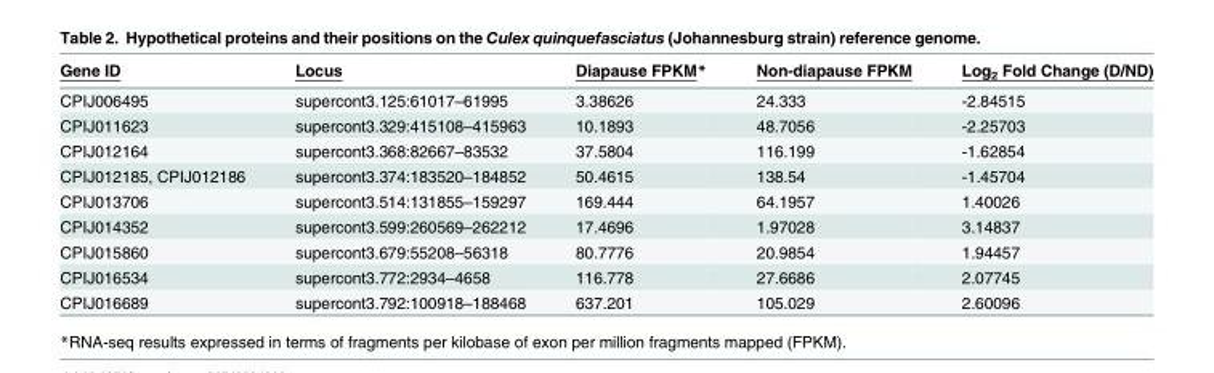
<table><thead><tr><td>Gene ID</td><td>Locus</td><td>Diapause FPKM*</td><td>Non-diapause FPKM</td><td>Log<sub>2</sub> Fold Change (D/ND)</td></tr></thead><tbody><tr><td>CPIJ006495</td><td>supercont3.125:61017–61995</td><td>3.38626</td><td>24.333</td><td>-2.84515</td></tr><tr><td>CPIJ011623</td><td>supercont3.329:415108–415963</td><td>10.1893</td><td>48.7056</td><td>-2.25703</td></tr><tr><td>CPIJ012164</td><td>supercont3.368:82667–83532</td><td>37.5804</td><td>116.199</td><td>-1.62854</td></tr><tr><td>CPIJ012185, CPIJ012186</td><td>supercont3.374:183520–184852</td><td>50.4615</td><td>138.54</td><td>-1.45704</td></tr><tr><td>CPIJ013706</td><td>supercont3.514:131855–159297</td><td>169.444</td><td>64.1957</td><td>1.40026</td></tr><tr><td>CPIJ014352</td><td>supercont3.599:260569–262212</td><td>17.4696</td><td>1.97028</td><td>3.14837</td></tr><tr><td>CPIJ015860</td><td>supercont3.679:55208–56318</td><td>80.7776</td><td>20.9854</td><td>1.94457</td></tr><tr><td>CPIJ016534</td><td>supercont3.772:2934–4658</td><td>116.778</td><td>27.6686</td><td>2.07745</td></tr><tr><td>CPIJ016689</td><td>supercont3.792:100918–188468</td><td>637.201</td><td>105.029</td><td>2.60096</td></tr></tbody></table>